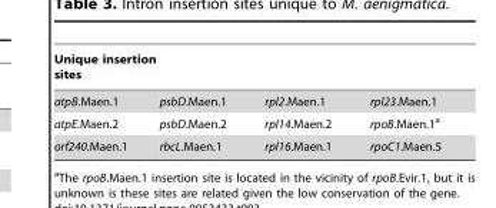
<table><thead><tr><td>Unique insertion sites</td><td></td><td></td><td></td></tr></thead><tbody><tr><td>atpB.Maen.1</td><td>psbD.Maen.1</td><td>rpl2.Maen.1</td><td>rpl23.Maen.1</td></tr><tr><td>atpE.Maen.2</td><td>psbD.Maen.2</td><td>rpl14.Maen.2</td><td>rpoB.Maen.1<sup>a</sup></td></tr><tr><td>orf240.Maen.1</td><td>rbcL.Maen.1</td><td>rpl16.Maen.1</td><td>rpoC1.Maen.5</td></tr></tbody></table>